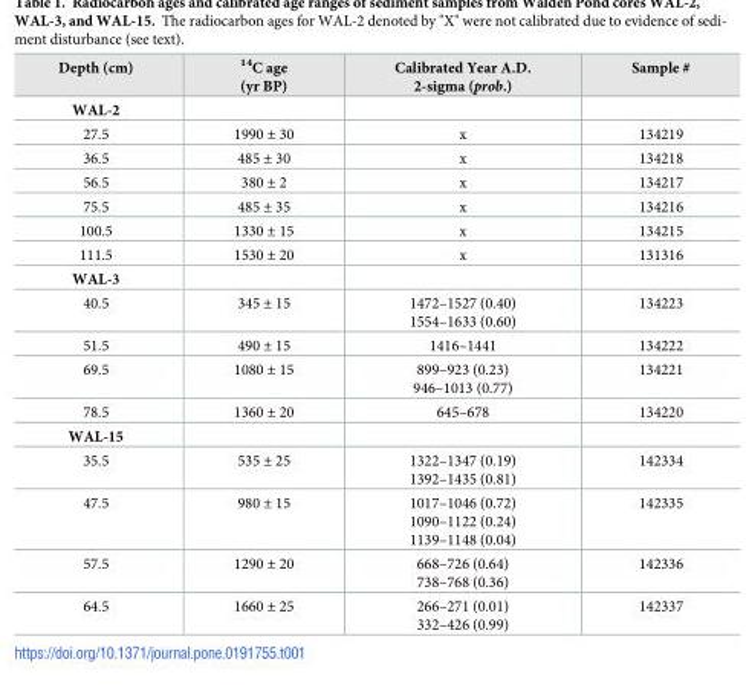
<table><thead><tr><td>Depth (cm)</td><td><sup>14</sup>C age (yr BP)</td><td>Calibrated Year A.D. 2-sigma (prob.)</td><td>Sample #</td></tr></thead><tbody><tr><td colspan="4">WAL-2</td></tr><tr><td>27.5</td><td>1990 ± 30</td><td>x</td><td>134219</td></tr><tr><td>36.5</td><td>485 ± 30</td><td>x</td><td>134218</td></tr><tr><td>56.5</td><td>380 ± 2</td><td>x</td><td>134217</td></tr><tr><td>75.5</td><td>485 ± 35</td><td>x</td><td>134216</td></tr><tr><td>100.5</td><td>1330 ± 15</td><td>x</td><td>134215</td></tr><tr><td>111.5</td><td>1530 ± 20</td><td>x</td><td>131316</td></tr><tr><td colspan="4">WAL-3</td></tr><tr><td>40.5</td><td>345 ± 15</td><td>1472–1527 (0.40) 1554–1633 (0.60)</td><td>134223</td></tr><tr><td>51.5</td><td>490 ± 15</td><td>1416–1441</td><td>134222</td></tr><tr><td>69.5</td><td>1080 ± 15</td><td>899–923 (0.23) 946–1013 (0.77)</td><td>134221</td></tr><tr><td>78.5</td><td>1360 ± 20</td><td>645–678</td><td>134220</td></tr><tr><td colspan="4">WAL-15</td></tr><tr><td>35.5</td><td>535 ± 25</td><td>1322–1347 (0.19) 1392–1435 (0.81)</td><td>142334</td></tr><tr><td>47.5</td><td>980 ± 15</td><td>1017–1046 (0.72) 1090–1122 (0.24) 1139–1148 (0.04)</td><td>142335</td></tr><tr><td>57.5</td><td>1290 ± 20</td><td>668–726 (0.64) 738–768 (0.36)</td><td>142336</td></tr><tr><td>64.5</td><td>1660 ± 25</td><td>266–271 (0.01) 332–426 (0.99)</td><td>142337</td></tr></tbody></table>